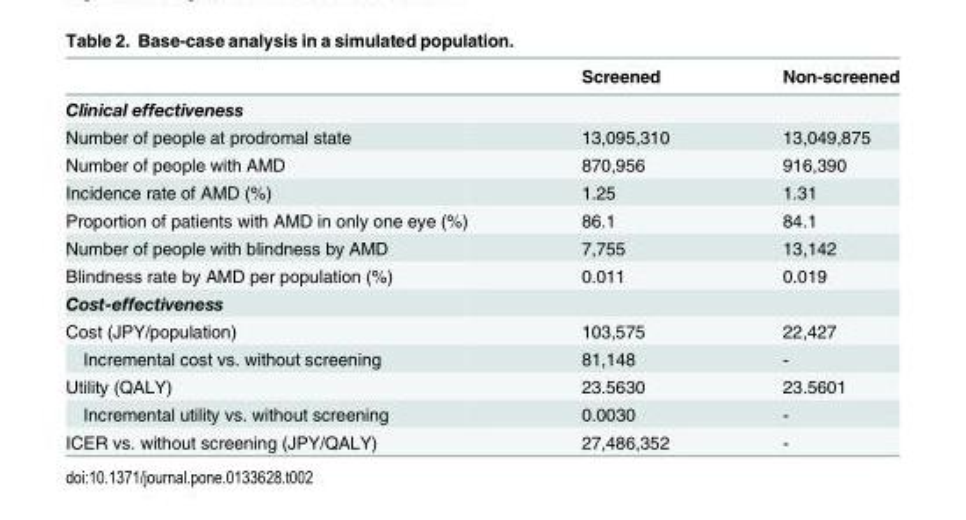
<table><thead><tr><td></td><td>Screened</td><td>Non-screened</td></tr></thead><tbody><tr><td colspan="3">Clinical effectiveness</td></tr><tr><td>Number of people at prodromal state</td><td>13,095,310</td><td>13,049,875</td></tr><tr><td>Number of people with AMD</td><td>870,956</td><td>916,390</td></tr><tr><td>Incidence rate of AMD (%)</td><td>1.25</td><td>1.31</td></tr><tr><td>Proportion of patients with AMD in only one eye (%)</td><td>86.1</td><td>84.1</td></tr><tr><td>Number of people with blindness by AMD</td><td>7,755</td><td>13,142</td></tr><tr><td>Blindness rate by AMD per population (%)</td><td>0.011</td><td>0.019</td></tr><tr><td colspan="3">Cost-effectiveness</td></tr><tr><td>Cost (JPY/population)</td><td>103,575</td><td>22,427</td></tr><tr><td>Incremental cost vs. without screening</td><td>81,148</td><td>-</td></tr><tr><td>Utility (QALY)</td><td>23.5630</td><td>23.5601</td></tr><tr><td>Incremental utility vs. without screening</td><td>0.0030</td><td>-</td></tr><tr><td>ICER vs. without screening (JPY/QALY)</td><td>27,486,352</td><td>-</td></tr></tbody></table>